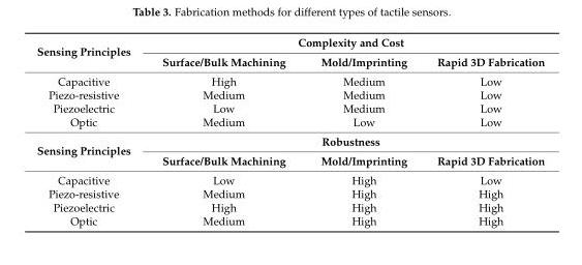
<table><tbody><tr><td rowspan="2">Sensing Principles</td><td colspan="3">Complexity and Cost</td></tr><tr><td>Surface/Bulk Machining</td><td>Mold/Imprinting</td><td>Rapid 3D Fabrication</td></tr><tr><td>Capacitive</td><td>High</td><td>Medium</td><td>Low</td></tr><tr><td>Piezo-resistive</td><td>Medium</td><td>Medium</td><td>Low</td></tr><tr><td>Piezoelectric</td><td>Low</td><td>Medium</td><td>Low</td></tr><tr><td>Optic</td><td>Medium</td><td>Low</td><td>Low</td></tr><tr><td rowspan="2">Sensing Principles</td><td colspan="3">Robustness</td></tr><tr><td>Surface/Bulk Machining</td><td>Mold/Imprinting</td><td>Rapid 3D Fabrication</td></tr><tr><td>Capacitive</td><td>Low</td><td>High</td><td>Low</td></tr><tr><td>Piezo-resistive</td><td>Medium</td><td>High</td><td>High</td></tr><tr><td>Piezoelectric</td><td>High</td><td>High</td><td>High</td></tr><tr><td>Optic</td><td>Medium</td><td>High</td><td>High</td></tr></tbody></table>